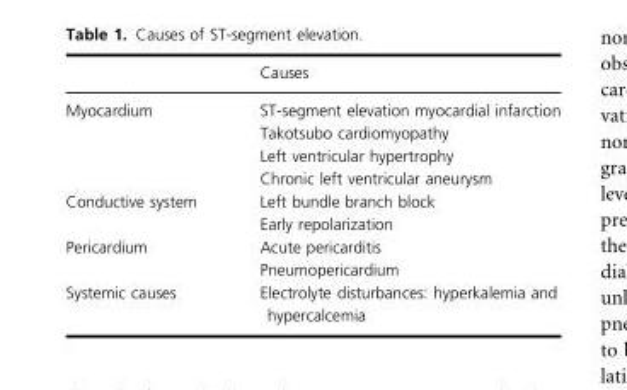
<table><thead><tr><td></td><td>Causes</td></tr></thead><tbody><tr><td rowspan="4">Myocardium</td><td>ST-segment elevation myocardial infarction</td></tr><tr><td>Takotsubo cardiomyopathy</td></tr><tr><td>Left ventricular hypertrophy</td></tr><tr><td>Chronic left ventricular aneurysm</td></tr><tr><td rowspan="2">Conductive system</td><td>Left bundle branch block</td></tr><tr><td>Early repolarization</td></tr><tr><td rowspan="2">Pericardium</td><td>Acute pericarditis</td></tr><tr><td>Pneumopericardium</td></tr><tr><td>Systemic causes</td><td>Electrolyte disturbances: hyperkalemia and hypercalcemia</td></tr></tbody></table>